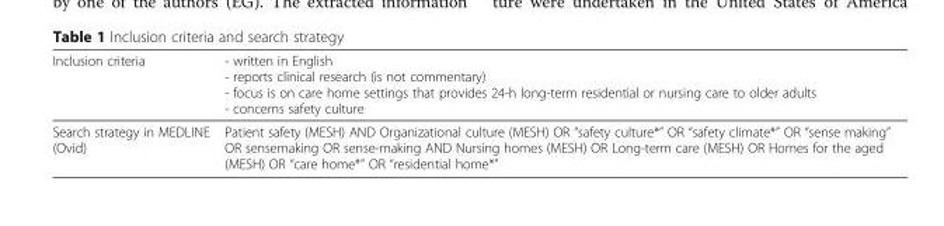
<table><thead><tr><td>Inclusion criteria</td><td>- written in English - reports clinical research (is not commentary) - focus is on care home settings that provides 24-h long-term residential or nursing care to older adults - concerns safety culture</td></tr></thead><tbody><tr><td>Search strategy in MEDLINE (Ovid)</td><td>Patient safety (MESH) AND Organizational culture (MESH) OR “safety culture*” OR “safety climate*” OR “sense making” OR sensemaking OR sense-making AND Nursing homes (MESH) OR Long-term care (MESH) OR Homes for the aged (MESH) OR “care home*” OR “residential home*”</td></tr></tbody></table>